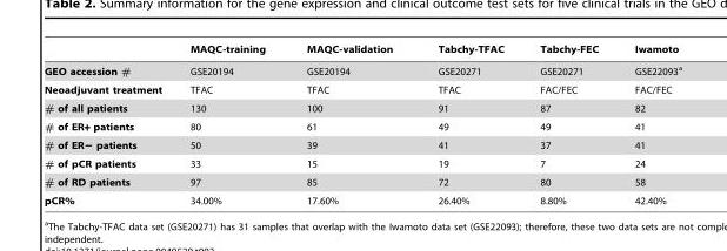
<table><thead><tr><td></td><td>MAQC-training</td><td>MAQC-validation</td><td>Tabchy-TFAC</td><td>Tabchy-FEC</td><td>Iwamoto</td></tr></thead><tbody><tr><td>GEO accession #</td><td>GSE20194</td><td>GSE20194</td><td>GSE20271</td><td>GSE20271</td><td>GSE22093<sup>a</sup></td></tr><tr><td>Neoadjuvant treatment</td><td>TFAC</td><td>TFAC</td><td>TFAC</td><td>FAC/FEC</td><td>FAC/FEC</td></tr><tr><td># of all patients</td><td>130</td><td>100</td><td>91</td><td>87</td><td>82</td></tr><tr><td># of ER+ patients</td><td>80</td><td>61</td><td>49</td><td>49</td><td>41</td></tr><tr><td># of ER− patients</td><td>50</td><td>39</td><td>41</td><td>37</td><td>41</td></tr><tr><td># of pCR patients</td><td>33</td><td>15</td><td>19</td><td>7</td><td>24</td></tr><tr><td># of RD patients</td><td>97</td><td>85</td><td>72</td><td>80</td><td>58</td></tr><tr><td>pCR%</td><td>34.00%</td><td>17.60%</td><td>26.40%</td><td>8.80%</td><td>42.40%</td></tr></tbody></table>